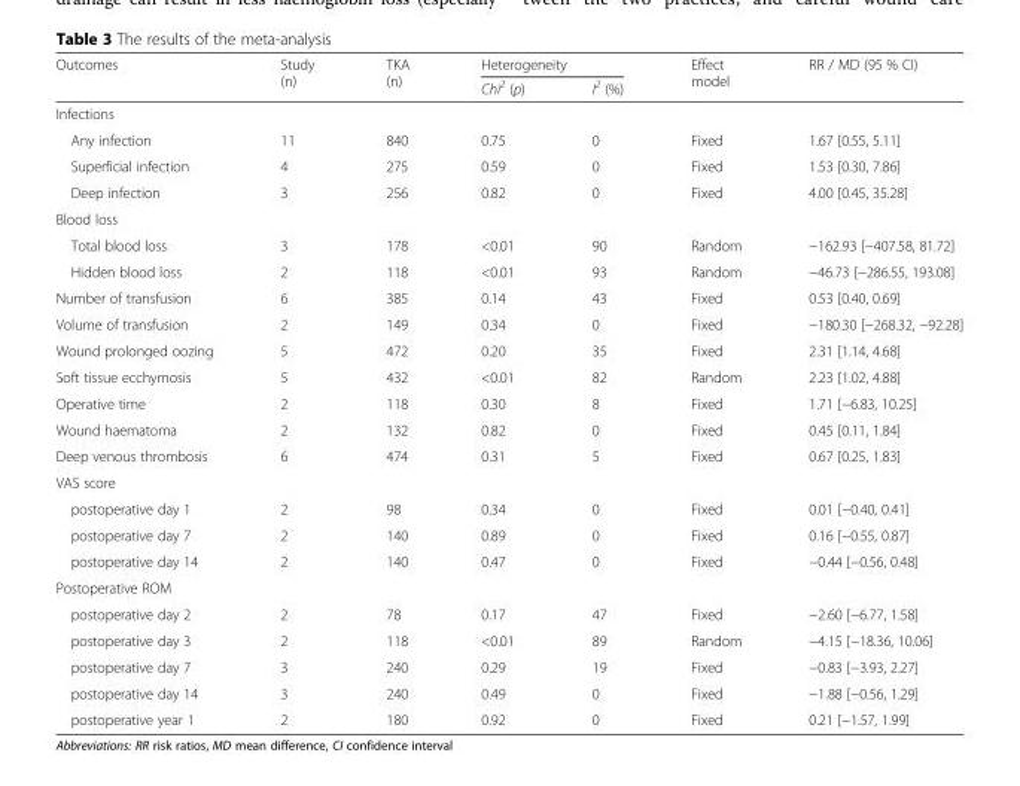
<table><thead><tr><td rowspan="2">Outcomes</td><td rowspan="2">Study (n)</td><td rowspan="2">TKA (n)</td><td colspan="2">Heterogeneity</td><td rowspan="2">Effect model</td><td rowspan="2">RR / MD (95 % CI)</td></tr><tr><td>Chi<sup>2</sup> (p)</td><td>I<sup>2</sup> (%)</td></tr></thead><tbody><tr><td colspan="7">Infections</td></tr><tr><td>Any infection</td><td>11</td><td>840</td><td>0.75</td><td>0</td><td>Fixed</td><td>1.67 [0.55, 5.11]</td></tr><tr><td>Superficial infection</td><td>4</td><td>275</td><td>0.59</td><td>0</td><td>Fixed</td><td>1.53 [0.30, 7.86]</td></tr><tr><td>Deep infection</td><td>3</td><td>256</td><td>0.82</td><td>0</td><td>Fixed</td><td>4.00 [0.45, 35.28]</td></tr><tr><td colspan="7">Blood loss</td></tr><tr><td>Total blood loss</td><td>3</td><td>178</td><td>&lt;0.01</td><td>90</td><td>Random</td><td>−162.93 [−407.58, 81.72]</td></tr><tr><td>Hidden blood loss</td><td>2</td><td>118</td><td>&lt;0.01</td><td>93</td><td>Random</td><td>−46.73 [−286.55, 193.08]</td></tr><tr><td>Number of transfusion</td><td>6</td><td>385</td><td>0.14</td><td>43</td><td>Fixed</td><td>0.53 [0.40, 0.69]</td></tr><tr><td>Volume of transfusion</td><td>2</td><td>149</td><td>0.34</td><td>0</td><td>Fixed</td><td>−180.30 [−268.32, −92.28]</td></tr><tr><td>Wound prolonged oozing</td><td>5</td><td>472</td><td>0.20</td><td>35</td><td>Fixed</td><td>2.31 [1.14, 4.68]</td></tr><tr><td>Soft tissue ecchymosis</td><td>5</td><td>432</td><td>&lt;0.01</td><td>82</td><td>Random</td><td>2.23 [1.02, 4.88]</td></tr><tr><td>Operative time</td><td>2</td><td>118</td><td>0.30</td><td>8</td><td>Fixed</td><td>1.71 [−6.83, 10.25]</td></tr><tr><td>Wound haematoma</td><td>2</td><td>132</td><td>0.82</td><td>0</td><td>Fixed</td><td>0.45 [0.11, 1.84]</td></tr><tr><td>Deep venous thrombosis</td><td>6</td><td>474</td><td>0.31</td><td>5</td><td>Fixed</td><td>0.67 [0.25, 1.83]</td></tr><tr><td colspan="7">VAS score</td></tr><tr><td>postoperative day 1</td><td>2</td><td>98</td><td>0.34</td><td>0</td><td>Fixed</td><td>0.01 [−0.40, 0.41]</td></tr><tr><td>postoperative day 7</td><td>2</td><td>140</td><td>0.89</td><td>0</td><td>Fixed</td><td>0.16 [−0.55, 0.87]</td></tr><tr><td>postoperative day 14</td><td>2</td><td>140</td><td>0.47</td><td>0</td><td>Fixed</td><td>−0.44 [−0.56, 0.48]</td></tr><tr><td colspan="7">Postoperative ROM</td></tr><tr><td>postoperative day 2</td><td>2</td><td>78</td><td>0.17</td><td>47</td><td>Fixed</td><td>−2.60 [−6.77, 1.58]</td></tr><tr><td>postoperative day 3</td><td>2</td><td>118</td><td>&lt;0.01</td><td>89</td><td>Random</td><td>−4.15 [−18.36, 10.06]</td></tr><tr><td>postoperative day 7</td><td>3</td><td>240</td><td>0.29</td><td>19</td><td>Fixed</td><td>−0.83 [−3.93, 2.27]</td></tr><tr><td>postoperative day 14</td><td>3</td><td>240</td><td>0.49</td><td>0</td><td>Fixed</td><td>−1.88 [−0.56, 1.29]</td></tr><tr><td>postoperative year 1</td><td>2</td><td>180</td><td>0.92</td><td>0</td><td>Fixed</td><td>0.21 [−1.57, 1.99]</td></tr></tbody></table>